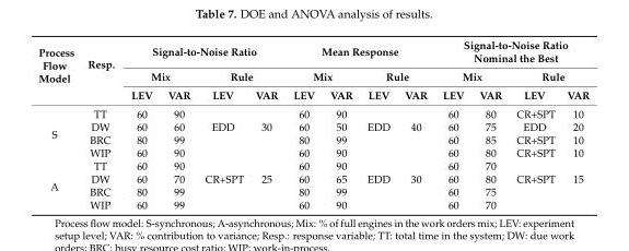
<table><thead><tr><td rowspan="3">Process Flow Model</td><td rowspan="3">Resp.</td><td colspan="4">Signal-to-Noise Ratio</td><td colspan="4">Mean Response</td><td colspan="4">Signal-to-Noise Ratio Nominal the Best</td></tr><tr><td colspan="2">Mix</td><td colspan="2">Rule</td><td colspan="2">Mix</td><td colspan="2">Rule</td><td colspan="2">Mix</td><td colspan="2">Rule</td></tr><tr><td>LEV</td><td>VAR</td><td>LEV</td><td>VAR</td><td>LEV</td><td>VAR</td><td>LEV</td><td>VAR</td><td>LEV</td><td>VAR</td><td>LEV</td><td>VAR</td></tr></thead><tbody><tr><td rowspan="4">S</td><td>TT</td><td>60</td><td>90</td><td></td><td></td><td>60</td><td>90</td><td></td><td></td><td>60</td><td>80</td><td>CR+SPT</td><td>10</td></tr><tr><td>DW</td><td>60</td><td>60</td><td>EDD</td><td>30</td><td>60</td><td>50</td><td>EDD</td><td>40</td><td>60</td><td>75</td><td>EDD</td><td>20</td></tr><tr><td>BRC</td><td>80</td><td>99</td><td></td><td></td><td>80</td><td>99</td><td></td><td></td><td>60</td><td>85</td><td>CR+SPT</td><td>10</td></tr><tr><td>WIP</td><td>60</td><td>90</td><td></td><td></td><td>60</td><td>90</td><td></td><td></td><td>60</td><td>80</td><td>CR+SPT</td><td>10</td></tr><tr><td rowspan="4">A</td><td>TT</td><td>60</td><td>90</td><td></td><td></td><td>60</td><td>90</td><td></td><td></td><td>60</td><td>70</td><td></td><td></td></tr><tr><td>DW</td><td>60</td><td>70</td><td>CR+SPT</td><td>25</td><td>60</td><td>65</td><td>EDD</td><td>30</td><td>60</td><td>80</td><td>CR+SPT</td><td>15</td></tr><tr><td>BRC</td><td>80</td><td>99</td><td></td><td></td><td>80</td><td>99</td><td></td><td></td><td>60</td><td>75</td><td></td><td></td></tr><tr><td>WIP</td><td>60</td><td>99</td><td></td><td></td><td>60</td><td>90</td><td></td><td></td><td>60</td><td>70</td><td></td><td></td></tr></tbody></table>